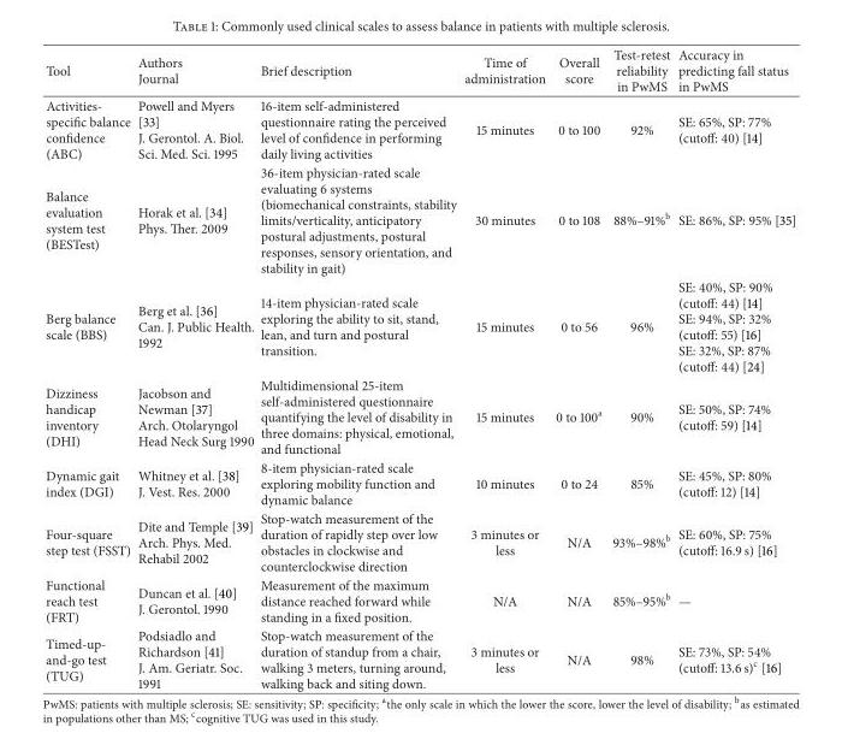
<table><thead><tr><td>Tool</td><td>Authors Journal</td><td>Brief description</td><td>Time of administration</td><td>Overall score</td><td>Test-retest reliability in PwMS</td><td>Accuracy in predicting fall status in PwMS</td></tr></thead><tbody><tr><td>Activities- specific balance confidence (ABC)</td><td>Powell and Myers [33] J. Gerontol. A. Biol. Sci. Med. Sci. 1995</td><td>16-item self-administered questionnaire rating the perceived level of confidence in performing daily living activities</td><td>15 minutes</td><td>0 to 100</td><td>92%</td><td>SE: 65%, SP: 77% (cutoff: 40) [14]</td></tr><tr><td>Balance evaluation system test (BESTest)</td><td>Horak et al. [34] Phys. Ther. 2009</td><td>36-item physician-rated scale evaluating 6 systems (biomechanical constraints, stability limits/verticality, anticipatory postural adjustments, postural responses, sensory orientation, and stability in gait)</td><td>30 minutes</td><td>0 to 108</td><td>88%–91%<sup>b</sup></td><td>SE: 86%, SP: 95% [35]</td></tr><tr><td>Berg balance scale (BBS)</td><td>Berg et al. [36] Can. J. Public Health. 1992</td><td>14-item physician-rated scale exploring the ability to sit, stand, lean, and turn and postural transition.</td><td>15 minutes</td><td>0 to 56</td><td>96%</td><td>SE: 40%, SP: 90% (cutoff: 44) [14] SE: 94%, SP: 32% (cutoff: 55) [16] SE: 32%, SP: 87% (cutoff: 44) [24]</td></tr><tr><td>Dizziness handicap inventory (DHI)</td><td>Jacobson and Newman [37] Arch. Otolaryngol Head Neck Surg 1990</td><td>Multidimensional 25-item self-administered questionnaire quantifying the level of disability in three domains: physical, emotional, and functional</td><td>15 minutes</td><td>0 to 100<sup>a</sup></td><td>90%</td><td>SE: 50%, SP: 74% (cutoff: 59) [14]</td></tr><tr><td>Dynamic gait index (DGI)</td><td>Whitney et al. [38] J. Vest. Res. 2000</td><td>8-item physician-rated scale exploring mobility function and dynamic balance</td><td>10 minutes</td><td>0 to 24</td><td>85%</td><td>SE: 45%, SP: 80% (cutoff: 12) [14]</td></tr><tr><td>Four-square step test (FSST)</td><td>Dite and Temple [39] Arch. Phys. Med. Rehabil 2002</td><td>Stop-watch measurement of the duration of rapidly step over low obstacles in clockwise and counterclockwise direction</td><td>3 minutes or less</td><td>N/A</td><td>93%–98%<sup>b</sup></td><td>SE: 60%, SP: 75% (cutoff: 16.9 s) [16]</td></tr><tr><td>Functional reach test (FRT)</td><td>Duncan et al. [40] J. Gerontol. 1990</td><td>Measurement of the maximum distance reached forward while standing in a fixed position.</td><td>N/A</td><td>N/A</td><td>85%–95%<sup>b</sup></td><td>—</td></tr><tr><td>Timed-up- and-go test (TUG)</td><td>Podsiadlo and Richardson [41] J. Am. Geriatr. Soc. 1991</td><td>Stop-watch measurement of the duration of standup from a chair, walking 3 meters, turning around, walking back and siting down.</td><td>3 minutes or less</td><td>N/A</td><td>98%</td><td>SE: 73%, SP: 54% (cutoff: 13.6 s)<sup>c</sup> [16]</td></tr></tbody></table>